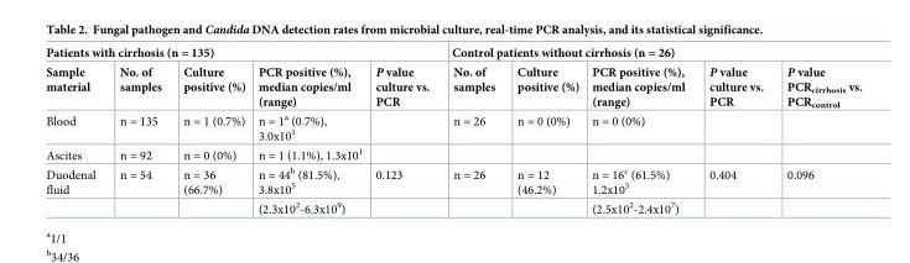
<table><thead><tr><td colspan="5">Patients with cirrhosis (n = 135)</td><td colspan="5">Control patients without cirrhosis (n = 26)</td></tr><tr><td>Sample material</td><td>No. of samples</td><td>Culture positive (%)</td><td>PCR positive (%), median copies/ml (range)</td><td>P value culture vs. PCR</td><td>No. of samples</td><td>Culture positive (%)</td><td>PCR positive (%), median copies/ml (range)</td><td>P value culture vs. PCR</td><td>P value PCR<sub>cirrhosis</sub> vs. PCR<sub>control</sub></td></tr></thead><tbody><tr><td>Blood</td><td>n = 135</td><td>n = 1 (0.7%)</td><td>n = 1<sup>a</sup> (0.7%), 3.0x10<sup>1</sup></td><td></td><td>n = 26</td><td>n = 0 (0%)</td><td>n = 0 (0%)</td><td></td><td></td></tr><tr><td>Ascites</td><td>n = 92</td><td>n = 0 (0%)</td><td>n = 1 (1.1%), 1.3x10<sup>1</sup></td><td></td><td></td><td></td><td></td><td></td><td></td></tr><tr><td rowspan="2">Duodenal fluid</td><td>n = 54</td><td>n = 36 (66.7%)</td><td>n = 44<sup>b</sup> (81.5%), 3.8x10<sup>5</sup></td><td>0.123</td><td>n = 26</td><td>n = 12 (46.2%)</td><td>n = 16<sup>c</sup> (61.5%) 1.2x10<sup>5</sup></td><td>0.404</td><td>0.096</td></tr><tr><td></td><td></td><td>(2.3x10<sup>2</sup>-6.3x10<sup>9</sup>)</td><td></td><td></td><td></td><td>(2.5x10<sup>2</sup>-2.4x10<sup>7</sup>)</td><td></td><td></td></tr></tbody></table>